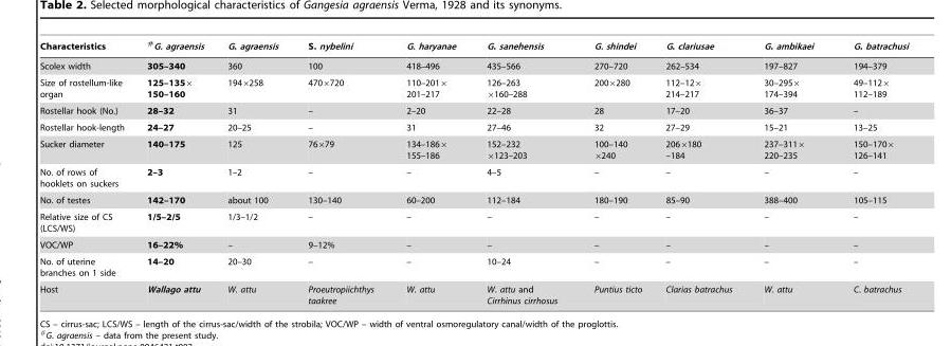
<table><thead><tr><td>Characteristics</td><td>#G. agraensis</td><td>G. agraensis</td><td>S. nybelini</td><td>G. haryanae</td><td>G. sanehensis</td><td>G. shindei</td><td>G. clariusae</td><td>G. ambikaei</td><td>G. batrachusi</td></tr></thead><tbody><tr><td>Scolex width</td><td>305–340</td><td>360</td><td>100</td><td>418–496</td><td>435–566</td><td>270–720</td><td>262–534</td><td>197–827</td><td>194–379</td></tr><tr><td>Size of rostellum-like organ</td><td>125–135× 150–160</td><td>194×258</td><td>470×720</td><td>110–201× 201–217</td><td>126–263 ×160–288</td><td>200×280</td><td>112–12× 214–217</td><td>30–295× 174–394</td><td>49–112× 112–189</td></tr><tr><td>Rostellar hook (No.)</td><td>28–32</td><td>31</td><td>–</td><td>2–20</td><td>22–28</td><td>28</td><td>17–20</td><td>36–37</td><td>–</td></tr><tr><td>Rostellar hook-length</td><td>24–27</td><td>20–25</td><td>–</td><td>31</td><td>27–46</td><td>32</td><td>27–29</td><td>15–21</td><td>13–25</td></tr><tr><td>Sucker diameter</td><td>140–175</td><td>125</td><td>76×79</td><td>134–186× 155–186</td><td>152–232 ×123–203</td><td>100–140 ×240</td><td>206×180 –184</td><td>237–311× 220–235</td><td>150–170× 126–141</td></tr><tr><td>No. of rows of hooklets on suckers</td><td>2–3</td><td>1–2</td><td>–</td><td>–</td><td>4–5</td><td>–</td><td>–</td><td>–</td><td>–</td></tr><tr><td>No. of testes</td><td>142–170</td><td>about 100</td><td>130–140</td><td>60–200</td><td>112–184</td><td>180–190</td><td>85–90</td><td>388–400</td><td>105–115</td></tr><tr><td>Relative size of CS (LCS/WS)</td><td>1/5–2/5</td><td>1/3–1/2</td><td>–</td><td>–</td><td>–</td><td>–</td><td>–</td><td>–</td><td>–</td></tr><tr><td>VOC/WP</td><td>16–22%</td><td>–</td><td>9–12%</td><td>–</td><td>–</td><td>–</td><td>–</td><td>–</td><td>–</td></tr><tr><td>No. of uterine branches on 1 side</td><td>14–20</td><td>20–30</td><td>–</td><td>–</td><td>10–24</td><td>–</td><td>–</td><td>–</td><td>–</td></tr><tr><td>Host</td><td>Wallago attu</td><td>W. attu</td><td>Proeutropiichthys taakree</td><td>W. attu</td><td>W. attu and Cirrhinus cirrhosus</td><td>Puntius ticto</td><td>Clarias batrachus</td><td>W. attu</td><td>C. batrachus</td></tr></tbody></table>